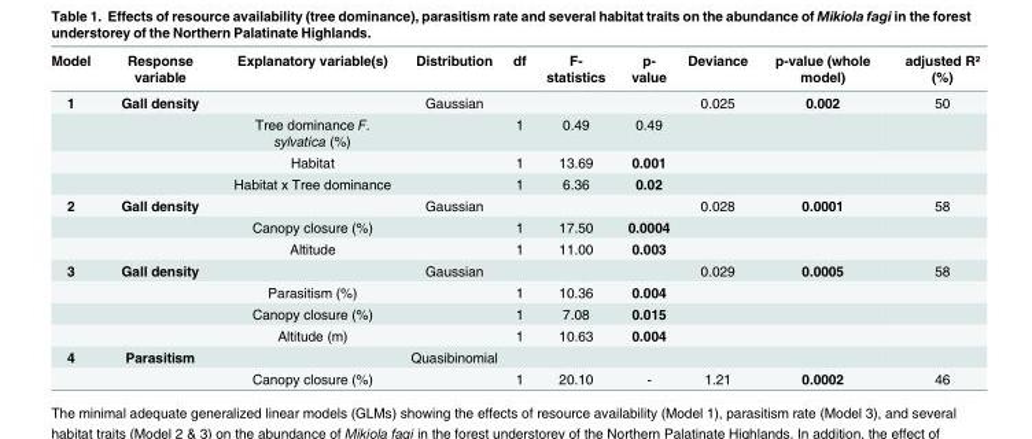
<table><thead><tr><td>Model</td><td>Response variable</td><td>Explanatory variable(s)</td><td>Distribution</td><td>df</td><td>F- statistics</td><td>p- value</td><td>Deviance</td><td>p-value (whole model)</td><td>adjusted R² (%)</td></tr></thead><tbody><tr><td rowspan="4">1</td><td>Gall density</td><td></td><td>Gaussian</td><td></td><td></td><td></td><td>0.025</td><td>0.002</td><td>50</td></tr><tr><td></td><td>Tree dominance F. sylvatica (%)</td><td></td><td>1</td><td>0.49</td><td>0.49</td><td></td><td></td><td></td></tr><tr><td></td><td>Habitat</td><td></td><td>1</td><td>13.69</td><td>0.001</td><td></td><td></td><td></td></tr><tr><td></td><td>Habitat x Tree dominance</td><td></td><td>1</td><td>6.36</td><td>0.02</td><td></td><td></td><td></td></tr><tr><td rowspan="3">2</td><td>Gall density</td><td></td><td>Gaussian</td><td></td><td></td><td></td><td>0.028</td><td>0.0001</td><td>58</td></tr><tr><td></td><td>Canopy closure (%)</td><td></td><td>1</td><td>17.50</td><td>0.0004</td><td></td><td></td><td></td></tr><tr><td></td><td>Altitude</td><td></td><td>1</td><td>11.00</td><td>0.003</td><td></td><td></td><td></td></tr><tr><td rowspan="4">3</td><td>Gall density</td><td></td><td>Gaussian</td><td></td><td></td><td></td><td>0.029</td><td>0.0005</td><td>58</td></tr><tr><td></td><td>Parasitism (%)</td><td></td><td>1</td><td>10.36</td><td>0.004</td><td></td><td></td><td></td></tr><tr><td></td><td>Canopy closure (%)</td><td></td><td>1</td><td>7.08</td><td>0.015</td><td></td><td></td><td></td></tr><tr><td></td><td>Altitude (m)</td><td></td><td>1</td><td>10.63</td><td>0.004</td><td></td><td></td><td></td></tr><tr><td rowspan="2">4</td><td>Parasitism</td><td></td><td>Quasibinomial</td><td></td><td></td><td></td><td></td><td></td><td></td></tr><tr><td></td><td>Canopy closure (%)</td><td></td><td>1</td><td>20.10</td><td>-</td><td>1.21</td><td>0.0002</td><td>46</td></tr></tbody></table>